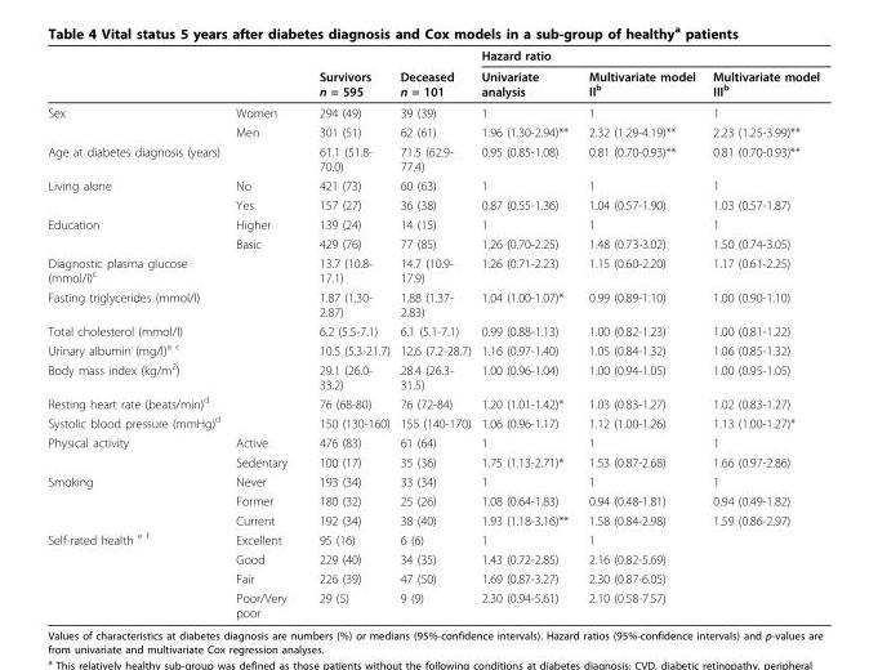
<table><thead><tr><td rowspan="2"></td><td rowspan="2"></td><td rowspan="2">Survivors n = 595</td><td rowspan="2">Deceased n = 101</td><td colspan="3">Hazard ratio</td></tr><tr><td>Univariate analysis</td><td>Multivariate model II<sup>b</sup></td><td>Multivariate model III<sup>b</sup></td></tr></thead><tbody><tr><td rowspan="2">Sex</td><td>Women</td><td>294 (49)</td><td>39 (39)</td><td>1</td><td>1</td><td>1</td></tr><tr><td>Men</td><td>301 (51)</td><td>62 (61)</td><td>1.96 (1.30-2.94)**</td><td>2.32 (1.29-4.19)**</td><td>2.23 (1.25-3.99)**</td></tr><tr><td>Age at diabetes diagnosis (years)</td><td></td><td>61.1 (51.8- 70.0)</td><td>71.5 (62.9- 77.4)</td><td>0.95 (0.85-1.08)</td><td>0.81 (0.70-0.93)**</td><td>0.81 (0.70-0.93)**</td></tr><tr><td rowspan="2">Living alone</td><td>No</td><td>421 (73)</td><td>60 (63)</td><td>1</td><td>1</td><td>1</td></tr><tr><td>Yes</td><td>157 (27)</td><td>36 (38)</td><td>0.87 (0.55-1.36)</td><td>1.04 (0.57-1.90)</td><td>1.03 (0.57-1.87)</td></tr><tr><td rowspan="2">Education</td><td>Higher</td><td>139 (24)</td><td>14 (15)</td><td>1</td><td>1</td><td>1</td></tr><tr><td>Basic</td><td>429 (76)</td><td>77 (85)</td><td>1.26 (0.70-2.25)</td><td>1.48 (0.73-3.02)</td><td>1.50 (0.74-3.05)</td></tr><tr><td>Diagnostic plasma glucose (mmol/l)<sup>c</sup></td><td></td><td>13.7 (10.8- 17.1)</td><td>14.7 (10.9- 17.9)</td><td>1.26 (0.71-2.23)</td><td>1.15 (0.60-2.20)</td><td>1.17 (0.61-2.25)</td></tr><tr><td>Fasting triglycerides (mmol/l)</td><td></td><td>1.87 (1.30- 2.87)</td><td>1.88 (1.37- 2.83)</td><td>1.04 (1.00-1.07)*</td><td>0.99 (0.89-1.10)</td><td>1.00 (0.90-1.10)</td></tr><tr><td>Total cholesterol (mmol/l)</td><td></td><td>6.2 (5.5-7.1)</td><td>6.1 (5.1-7.1)</td><td>0.99 (0.88-1.13)</td><td>1.00 (0.82-1.23)</td><td>1.00 (0.81-1.22)</td></tr><tr><td>Urinary albumin (mg/l)<sup>a c</sup></td><td></td><td>10.5 (5.3-21.7)</td><td>12.6 (7.2-28.7)</td><td>1.16 (0.97-1.40)</td><td>1.05 (0.84-1.32)</td><td>1.06 (0.85-1.32)</td></tr><tr><td>Body mass index (kg/m<sup>2</sup>)</td><td></td><td>29.1 (26.0- 33.2)</td><td>28.4 (26.3- 31.5)</td><td>1.00 (0.96-1.04)</td><td>1.00 (0.94-1.05)</td><td>1.00 (0.95-1.05)</td></tr><tr><td>Resting heart rate (beats/min)<sup>d</sup></td><td></td><td>76 (68-80)</td><td>76 (72-84)</td><td>1.20 (1.01-1.42)*</td><td>1.03 (0.83-1.27)</td><td>1.02 (0.83-1.27)</td></tr><tr><td>Systolic blood pressure (mmHg)<sup>d</sup></td><td></td><td>150 (130-160)</td><td>155 (140-170)</td><td>1.06 (0.96-1.17)</td><td>1.12 (1.00-1.26)</td><td>1.13 (1.00-1.27)*</td></tr><tr><td rowspan="2">Physical activity</td><td>Active</td><td>476 (83)</td><td>61 (64)</td><td>1</td><td>1</td><td>1</td></tr><tr><td>Sedentary</td><td>100 (17)</td><td>35 (36)</td><td>1.75 (1.13-2.71)*</td><td>1.53 (0.87-2.68)</td><td>1.66 (0.97-2.86)</td></tr><tr><td rowspan="3">Smoking</td><td>Never</td><td>193 (34)</td><td>33 (34)</td><td>1</td><td>1</td><td>1</td></tr><tr><td>Former</td><td>180 (32)</td><td>25 (26)</td><td>1.08 (0.64-1.83)</td><td>0.94 (0.48-1.81)</td><td>0.94 (0.49-1.82)</td></tr><tr><td>Current</td><td>192 (34)</td><td>38 (40)</td><td>1.93 (1.18-3.16)**</td><td>1.58 (0.84-2.98)</td><td>1.59 (0.86-2.97)</td></tr><tr><td rowspan="4">Self-rated health <sup>e f</sup></td><td>Excellent</td><td>95 (16)</td><td>6 (6)</td><td>1</td><td>1</td><td></td></tr><tr><td>Good</td><td>229 (40)</td><td>34 (35)</td><td>1.43 (0.72-2.85)</td><td>2.16 (0.82-5.69)</td><td></td></tr><tr><td>Fair</td><td>226 (39)</td><td>47 (50)</td><td>1.69 (0.87-3.27)</td><td>2.30 (0.87-6.05)</td><td></td></tr><tr><td>Poor/Very poor</td><td>29 (5)</td><td>9 (9)</td><td>2.30 (0.94-5.61)</td><td>2.10 (0.58-7.57)</td><td></td></tr></tbody></table>